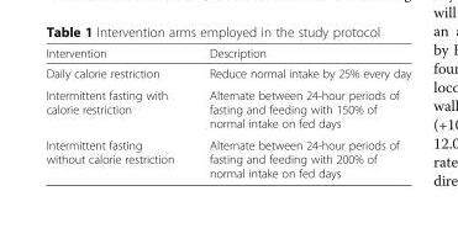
<table><thead><tr><td>Intervention</td><td>Description</td></tr></thead><tbody><tr><td>Daily calorie restriction</td><td>Reduce normal intake by 25% every day</td></tr><tr><td>Intermittent fasting with calorie restriction</td><td>Alternate between 24-hour periods of fasting and feeding with 150% of normal intake on fed days</td></tr><tr><td>Intermittent fasting without calorie restriction</td><td>Alternate between 24-hour periods of fasting and feeding with 200% of normal intake on fed days</td></tr></tbody></table>